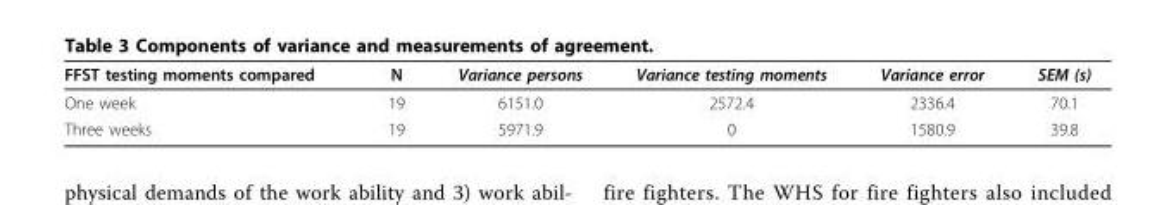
<table><thead><tr><td>FFST testing moments compared</td><td>N</td><td>Variance persons</td><td>Variance testing moments</td><td>Variance error</td><td>SEM (s)</td></tr></thead><tbody><tr><td>One week</td><td>19</td><td>6151.0</td><td>2572.4</td><td>2336.4</td><td>70.1</td></tr><tr><td>Three weeks</td><td>19</td><td>5971.9</td><td>0</td><td>1580.9</td><td>39.8</td></tr></tbody></table>